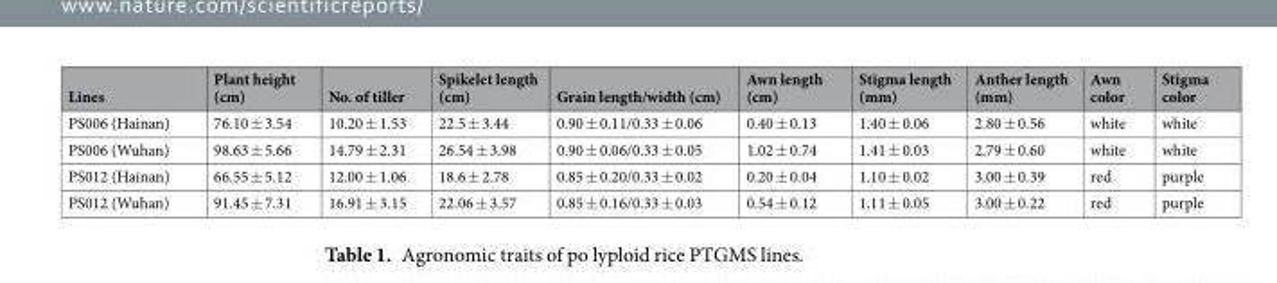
<table><thead><tr><td>Lines</td><td>Plant height (cm)</td><td>No. of tiller</td><td>Spikelet length (cm)</td><td>Grain length/width (cm)</td><td>Awn length (cm)</td><td>Stigma length (mm)</td><td>Anther length (mm)</td><td>Awn color</td><td>Stigma color</td></tr></thead><tbody><tr><td>PS006 (Hainan)</td><td>76.10 ± 3.54</td><td>10.20 ± 1.53</td><td>22.5 ± 3.44</td><td>0.90 ± 0.11/0.33 ± 0.06</td><td>0.40 ± 0.13</td><td>1.40 ± 0.06</td><td>2.80 ± 0.56</td><td>white</td><td>white</td></tr><tr><td>PS006 (Wuhan)</td><td>98.63 ± 5.66</td><td>14.79 ± 2.31</td><td>26.54 ± 3.98</td><td>0.90 ± 0.06/0.33 ± 0.05</td><td>1.02 ± 0.74</td><td>1.41 ± 0.03</td><td>2.79 ± 0.60</td><td>white</td><td>white</td></tr><tr><td>PS012 (Hainan)</td><td>66.55 ± 5.12</td><td>12.00 ± 1.06</td><td>18.6 ± 2.78</td><td>0.85 ± 0.20/0.33 ± 0.02</td><td>0.20 ± 0.04</td><td>1.10 ± 0.02</td><td>3.00 ± 0.39</td><td>red</td><td>purple</td></tr><tr><td>PS012 (Wuhan)</td><td>91.45 ± 7.31</td><td>16.91 ± 3.15</td><td>22.06 ± 3.57</td><td>0.85 ± 0.16/0.33 ± 0.03</td><td>0.54 ± 0.12</td><td>1.11 ± 0.05</td><td>3.00 ± 0.22</td><td>red</td><td>purple</td></tr></tbody></table>